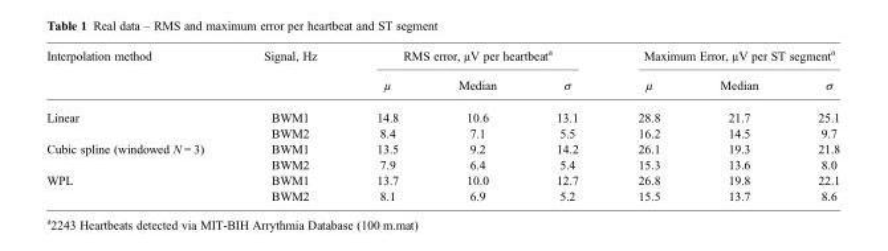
<table><thead><tr><td rowspan="2">Interpolation method</td><td rowspan="2">Signal, Hz</td><td colspan="3">RMS error, μV per heartbeat<sup>a</sup></td><td colspan="3">Maximum Error, μV per ST segment<sup>a</sup></td></tr><tr><td>μ</td><td>Median</td><td>σ</td><td>μ</td><td>Median</td><td>σ</td></tr></thead><tbody><tr><td rowspan="2">Linear</td><td>BWM1</td><td>14.8</td><td>10.6</td><td>13.1</td><td>28.8</td><td>21.7</td><td>25.1</td></tr><tr><td>BWM2</td><td>8.4</td><td>7.1</td><td>5.5</td><td>16.2</td><td>14.5</td><td>9.7</td></tr><tr><td rowspan="2">Cubic spline (windowed N = 3)</td><td>BWM1</td><td>13.5</td><td>9.2</td><td>14.2</td><td>26.1</td><td>19.3</td><td>21.8</td></tr><tr><td>BWM2</td><td>7.9</td><td>6.4</td><td>5.4</td><td>15.3</td><td>13.6</td><td>8.0</td></tr><tr><td rowspan="2">WPL</td><td>BWM1</td><td>13.7</td><td>10.0</td><td>12.7</td><td>26.8</td><td>19.8</td><td>22.1</td></tr><tr><td>BWM2</td><td>8.1</td><td>6.9</td><td>5.2</td><td>15.5</td><td>13.7</td><td>8.6</td></tr></tbody></table>